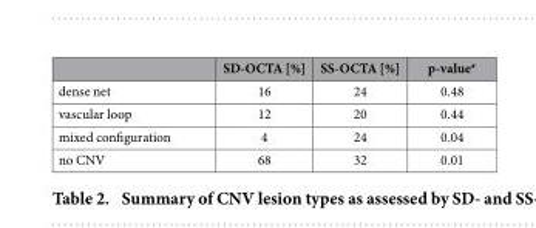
<table><thead><tr><td></td><td>SD-OCTA [%]</td><td>SS-OCTA [%]</td><td>p-value*</td></tr></thead><tbody><tr><td>dense net</td><td>16</td><td>24</td><td>0.48</td></tr><tr><td>vascular loop</td><td>12</td><td>20</td><td>0.44</td></tr><tr><td>mixed configuration</td><td>4</td><td>24</td><td>0.04</td></tr><tr><td>no CNV</td><td>68</td><td>32</td><td>0.01</td></tr></tbody></table>